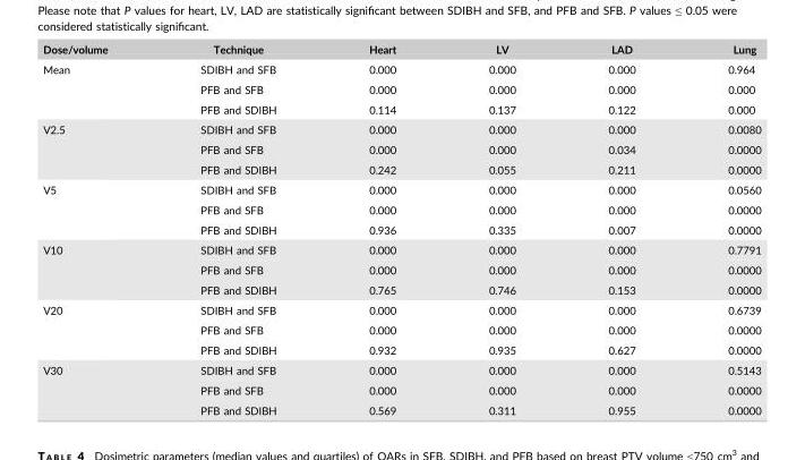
<table><thead><tr><td>Dose/volume</td><td>Technique</td><td>Heart</td><td>LV</td><td>LAD</td><td>Lung</td></tr></thead><tbody><tr><td rowspan="3">Mean</td><td>SDIBH and SFB</td><td>0.000</td><td>0.000</td><td>0.000</td><td>0.964</td></tr><tr><td>PFB and SFB</td><td>0.000</td><td>0.000</td><td>0.000</td><td>0.000</td></tr><tr><td>PFB and SDIBH</td><td>0.114</td><td>0.137</td><td>0.122</td><td>0.000</td></tr><tr><td rowspan="3">V2.5</td><td>SDIBH and SFB</td><td>0.000</td><td>0.000</td><td>0.000</td><td>0.0080</td></tr><tr><td>PFB and SFB</td><td>0.000</td><td>0.000</td><td>0.034</td><td>0.0000</td></tr><tr><td>PFB and SDIBH</td><td>0.242</td><td>0.055</td><td>0.211</td><td>0.0000</td></tr><tr><td rowspan="3">V5</td><td>SDIBH and SFB</td><td>0.000</td><td>0.000</td><td>0.000</td><td>0.0560</td></tr><tr><td>PFB and SFB</td><td>0.000</td><td>0.000</td><td>0.000</td><td>0.0000</td></tr><tr><td>PFB and SDIBH</td><td>0.936</td><td>0.335</td><td>0.007</td><td>0.0000</td></tr><tr><td rowspan="3">V10</td><td>SDIBH and SFB</td><td>0.000</td><td>0.000</td><td>0.000</td><td>0.7791</td></tr><tr><td>PFB and SFB</td><td>0.000</td><td>0.000</td><td>0.000</td><td>0.0000</td></tr><tr><td>PFB and SDIBH</td><td>0.765</td><td>0.746</td><td>0.153</td><td>0.0000</td></tr><tr><td rowspan="3">V20</td><td>SDIBH and SFB</td><td>0.000</td><td>0.000</td><td>0.000</td><td>0.6739</td></tr><tr><td>PFB and SFB</td><td>0.000</td><td>0.000</td><td>0.000</td><td>0.0000</td></tr><tr><td>PFB and SDIBH</td><td>0.932</td><td>0.935</td><td>0.627</td><td>0.0000</td></tr><tr><td rowspan="3">V30</td><td>SDIBH and SFB</td><td>0.000</td><td>0.000</td><td>0.000</td><td>0.5143</td></tr><tr><td>PFB and SFB</td><td>0.000</td><td>0.000</td><td>0.000</td><td>0.0000</td></tr><tr><td>PFB and SDIBH</td><td>0.569</td><td>0.311</td><td>0.955</td><td>0.0000</td></tr></tbody></table>